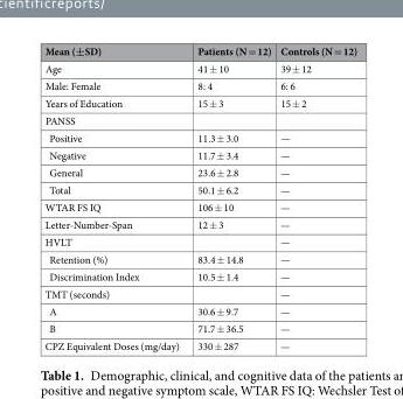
<table><thead><tr><td>Mean (±SD)</td><td>Patients (N = 12)</td><td>Controls (N = 12)</td></tr></thead><tbody><tr><td>Age</td><td>41 ± 10</td><td>39 ± 12</td></tr><tr><td>Male: Female</td><td>8: 4</td><td>6: 6</td></tr><tr><td>Years of Education</td><td>15 ± 3</td><td>15 ± 2</td></tr><tr><td colspan="3">PANSS</td></tr><tr><td>Positive</td><td>11.3 ± 3.0</td><td>—</td></tr><tr><td>Negative</td><td>11.7 ± 3.4</td><td>—</td></tr><tr><td>General</td><td>23.6 ± 2.8</td><td>—</td></tr><tr><td>Total</td><td>50.1 ± 6.2</td><td>—</td></tr><tr><td>WTAR FS IQ</td><td>106 ± 10</td><td>—</td></tr><tr><td>Letter-Number-Span</td><td>12 ± 3</td><td>—</td></tr><tr><td>HVLT</td><td></td><td>—</td></tr><tr><td>Retention (%)</td><td>83.4 ± 14.8</td><td>—</td></tr><tr><td>Discrimination Index</td><td>10.5 ± 1.4</td><td>—</td></tr><tr><td>TMT (seconds)</td><td></td><td>—</td></tr><tr><td>A</td><td>30.6 ± 9.7</td><td>—</td></tr><tr><td>B</td><td>71.7 ± 36.5</td><td>—</td></tr><tr><td>CPZ Equivalent Doses (mg/day)</td><td>330 ± 287</td><td>—</td></tr></tbody></table>